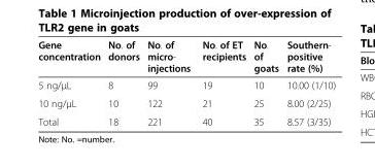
<table><thead><tr><td>Gene concentration</td><td>No. of donors</td><td>No. of micro- injections</td><td>No. of ET recipients</td><td>No. of goats</td><td>Southern- positive rate (%)</td></tr></thead><tbody><tr><td>5 ng/μL</td><td>8</td><td>99</td><td>19</td><td>10</td><td>10.00 (1/10)</td></tr><tr><td>10 ng/μL</td><td>10</td><td>122</td><td>21</td><td>25</td><td>8.00 (2/25)</td></tr><tr><td>Total</td><td>18</td><td>221</td><td>40</td><td>35</td><td>8.57 (3/35)</td></tr></tbody></table>